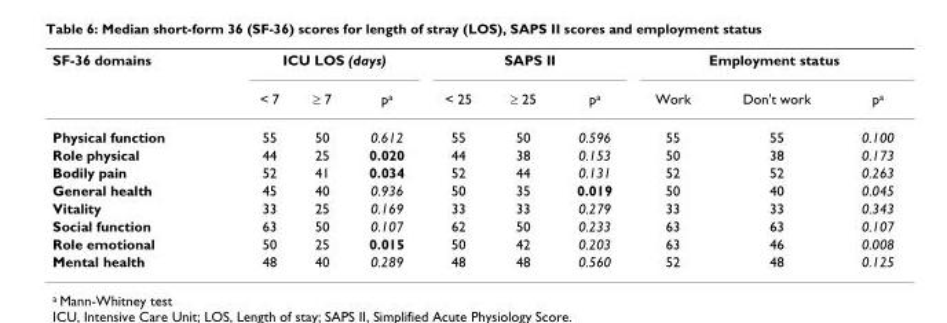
<table><thead><tr><td rowspan="2">SF-36 domains</td><td colspan="3">ICU LOS (days)</td><td colspan="3">SAPS II</td><td colspan="3">Employment status</td></tr><tr><td>&lt; 7</td><td>≥ 7</td><td>p<sup>a</sup></td><td>&lt; 25</td><td>≥ 25</td><td>p<sup>a</sup></td><td>Work</td><td>Don&#x27;t work</td><td>p<sup>a</sup></td></tr></thead><tbody><tr><td>Physical function</td><td>55</td><td>50</td><td>0.612</td><td>55</td><td>50</td><td>0.596</td><td>55</td><td>55</td><td>0.100</td></tr><tr><td>Role physical</td><td>44</td><td>25</td><td>0.020</td><td>44</td><td>38</td><td>0.153</td><td>50</td><td>38</td><td>0.173</td></tr><tr><td>Bodily pain</td><td>52</td><td>41</td><td>0.034</td><td>52</td><td>44</td><td>0.131</td><td>52</td><td>52</td><td>0.263</td></tr><tr><td>General health</td><td>45</td><td>40</td><td>0.936</td><td>50</td><td>35</td><td>0.019</td><td>50</td><td>40</td><td>0.045</td></tr><tr><td>Vitality</td><td>33</td><td>25</td><td>0.169</td><td>33</td><td>33</td><td>0.279</td><td>33</td><td>33</td><td>0.343</td></tr><tr><td>Social function</td><td>63</td><td>50</td><td>0.107</td><td>62</td><td>50</td><td>0.233</td><td>63</td><td>63</td><td>0.107</td></tr><tr><td>Role emotional</td><td>50</td><td>25</td><td>0.015</td><td>50</td><td>42</td><td>0.203</td><td>63</td><td>46</td><td>0.008</td></tr><tr><td>Mental health</td><td>48</td><td>40</td><td>0.289</td><td>48</td><td>48</td><td>0.560</td><td>52</td><td>48</td><td>0.125</td></tr></tbody></table>